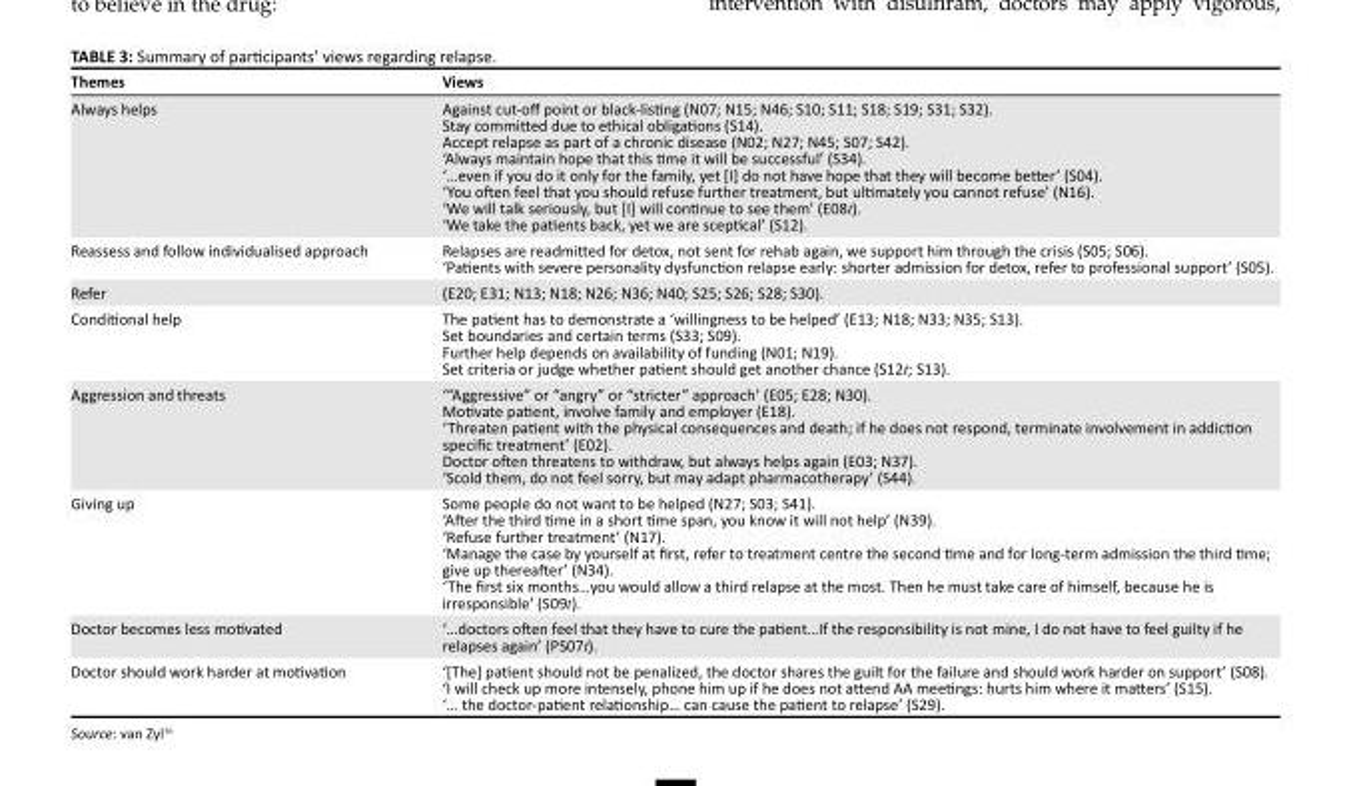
<table><thead><tr><td>Themes</td><td>Views</td></tr></thead><tbody><tr><td>Always helps</td><td>Against cut-off point or black-listing (N07; N15; N46; S10; S11; S18; S19; S31; S32). Stay committed due to ethical obligations (S14). Accept relapse as part of a chronic disease (N02; N27; N45; S07; S42). ‘Always maintain hope that this time it will be successful’ (S34). ‘…even if you do it only for the family, yet [I] do not have hope that they will become better’ (S04). ‘You often feel that you should refuse further treatment, but ultimately you cannot refuse’ (N16). ‘We will talk seriously, but [I] will continue to see them’ (E08t). ‘We take the patients back, yet we are sceptical’ (S12).</td></tr><tr><td>Reassess and follow individualised approach</td><td>Relapses are readmitted for detox, not sent for rehab again, we support him through the crisis (S05; S06). ‘Patients with severe personality dysfunction relapse early: shorter admission for detox, refer to professional support’ (S05).</td></tr><tr><td>Refer</td><td>(E20; E31; N13; N18; N26; N36; N40; S25; S26; S28; S30).</td></tr><tr><td>Conditional help</td><td>The patient has to demonstrate a ‘willingness to be helped’ (E13; N18; N33; N35; S13). Set boundaries and certain terms (S33; S09). Further help depends on availability of funding (N01; N19). Set criteria or judge whether patient should get another chance (S12t; S13).</td></tr><tr><td>Aggression and threats</td><td>‘“Aggressive” or “angry” or “stricter” approach’ (E05; E28; N30). Motivate patient, involve family and employer (E18). ‘Threaten patient with the physical consequences and death; if he does not respond, terminate involvement in addiction specific treatment’ (E02). Doctor often threatens to withdraw, but always helps again (E03; N37). ‘Scold them, do not feel sorry, but may adapt pharmacotherapy’ (S44).</td></tr><tr><td>Giving up</td><td>Some people do not want to be helped (N27; S03; S41). ‘After the third time in a short time span, you know it will not help’ (N39). ‘Refuse further treatment’ (N17). ‘Manage the case by yourself at first, refer to treatment centre the second time and for long-term admission the third time; give up thereafter’ (N34). ‘The first six months…you would allow a third relapse at the most. Then he must take care of himself, because he is irresponsible’ (S09t).</td></tr><tr><td>Doctor becomes less motivated</td><td>‘…doctors often feel that they have to cure the patient…If the responsibility is not mine, I do not have to feel guilty if he relapses again’ (PS07t).</td></tr><tr><td>Doctor should work harder at motivation</td><td>‘[The] patient should not be penalized, the doctor shares the guilt for the failure and should work harder on support’ (S08). ‘I will check up more intensely, phone him up if he does not attend AA meetings: hurts him where it matters’ (S15). ‘… the doctor-patient relationship… can cause the patient to relapse’ (S29).</td></tr></tbody></table>